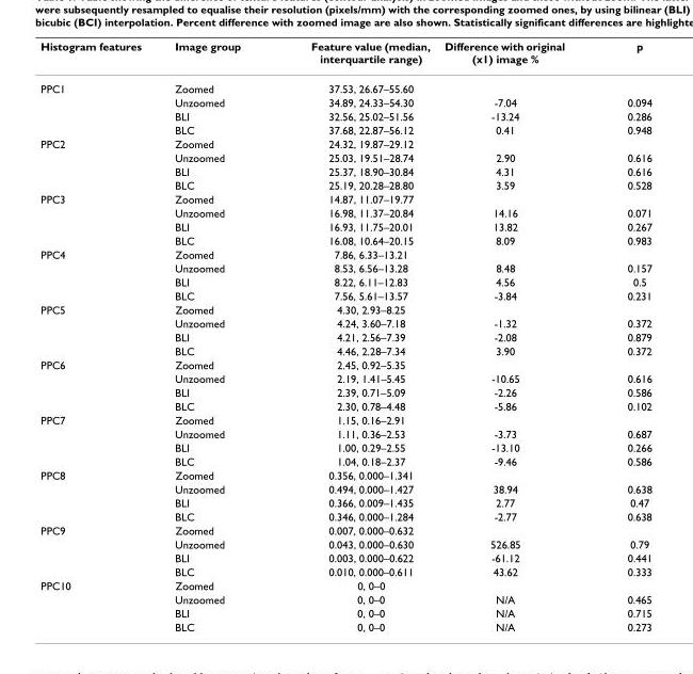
<table><thead><tr><td>Histogram features</td><td>Image group</td><td>Feature value (median, interquartile range)</td><td>Difference with original (x1) image %</td><td>p</td></tr></thead><tbody><tr><td rowspan="4">PPC1</td><td>Zoomed</td><td>37.53, 26.67–55.60</td><td></td><td></td></tr><tr><td>Unzoomed</td><td>34.89, 24.33–54.30</td><td>-7.04</td><td>0.094</td></tr><tr><td>BLI</td><td>32.56, 25.02–51.56</td><td>-13.24</td><td>0.286</td></tr><tr><td>BLC</td><td>37.68, 22.87–56.12</td><td>0.41</td><td>0.948</td></tr><tr><td rowspan="4">PPC2</td><td>Zoomed</td><td>24.32, 19.87–29.12</td><td></td><td></td></tr><tr><td>Unzoomed</td><td>25.03, 19.51–28.74</td><td>2.90</td><td>0.616</td></tr><tr><td>BLI</td><td>25.37, 18.90–30.84</td><td>4.31</td><td>0.616</td></tr><tr><td>BLC</td><td>25.19, 20.28–28.80</td><td>3.59</td><td>0.528</td></tr><tr><td rowspan="4">PPC3</td><td>Zoomed</td><td>14.87, 11.07–19.77</td><td></td><td></td></tr><tr><td>Unzoomed</td><td>16.98, 11.37–20.84</td><td>14.16</td><td>0.071</td></tr><tr><td>BLI</td><td>16.93, 11.75–20.01</td><td>13.82</td><td>0.267</td></tr><tr><td>BLC</td><td>16.08, 10.64–20.15</td><td>8.09</td><td>0.983</td></tr><tr><td rowspan="4">PPC4</td><td>Zoomed</td><td>7.86, 6.33–13.21</td><td></td><td></td></tr><tr><td>Unzoomed</td><td>8.53, 6.56–13.28</td><td>8.48</td><td>0.157</td></tr><tr><td>BLI</td><td>8.22, 6.11–12.83</td><td>4.56</td><td>0.5</td></tr><tr><td>BLC</td><td>7.56, 5.61–13.57</td><td>-3.84</td><td>0.231</td></tr><tr><td rowspan="4">PPC5</td><td>Zoomed</td><td>4.30, 2.93–8.25</td><td></td><td></td></tr><tr><td>Unzoomed</td><td>4.24, 3.60–7.18</td><td>-1.32</td><td>0.372</td></tr><tr><td>BLI</td><td>4.21, 2.56–7.39</td><td>-2.08</td><td>0.879</td></tr><tr><td>BLC</td><td>4.46, 2.28–7.34</td><td>3.90</td><td>0.372</td></tr><tr><td rowspan="4">PPC6</td><td>Zoomed</td><td>2.45, 0.92–5.35</td><td></td><td></td></tr><tr><td>Unzoomed</td><td>2.19, 1.41–5.45</td><td>-10.65</td><td>0.616</td></tr><tr><td>BLI</td><td>2.39, 0.71–5.09</td><td>-2.26</td><td>0.586</td></tr><tr><td>BLC</td><td>2.30, 0.78–4.48</td><td>-5.86</td><td>0.102</td></tr><tr><td rowspan="4">PPC7</td><td>Zoomed</td><td>1.15, 0.16–2.91</td><td></td><td></td></tr><tr><td>Unzoomed</td><td>1.11, 0.36–2.53</td><td>-3.73</td><td>0.687</td></tr><tr><td>BLI</td><td>1.00, 0.29–2.55</td><td>-13.10</td><td>0.266</td></tr><tr><td>BLC</td><td>1.04, 0.18–2.37</td><td>-9.46</td><td>0.586</td></tr><tr><td rowspan="4">PPC8</td><td>Zoomed</td><td>0.356, 0.000–1.341</td><td></td><td></td></tr><tr><td>Unzoomed</td><td>0.494, 0.000–1.427</td><td>38.94</td><td>0.638</td></tr><tr><td>BLI</td><td>0.366, 0.009–1.435</td><td>2.77</td><td>0.47</td></tr><tr><td>BLC</td><td>0.346, 0.000–1.284</td><td>-2.77</td><td>0.638</td></tr><tr><td rowspan="4">PPC9</td><td>Zoomed</td><td>0.007, 0.000–0.632</td><td></td><td></td></tr><tr><td>Unzoomed</td><td>0.043, 0.000–0.630</td><td>526.85</td><td>0.79</td></tr><tr><td>BLI</td><td>0.003, 0.000–0.622</td><td>-61.12</td><td>0.441</td></tr><tr><td>BLC</td><td>0.010, 0.000–0.611</td><td>43.62</td><td>0.333</td></tr><tr><td rowspan="4">PPC10</td><td>Zoomed</td><td>0, 0–0</td><td></td><td></td></tr><tr><td>Unzoomed</td><td>0, 0–0</td><td>N/A</td><td>0.465</td></tr><tr><td>BLI</td><td>0, 0–0</td><td>N/A</td><td>0.715</td></tr><tr><td>BLC</td><td>0, 0–0</td><td>N/A</td><td>0.273</td></tr></tbody></table>